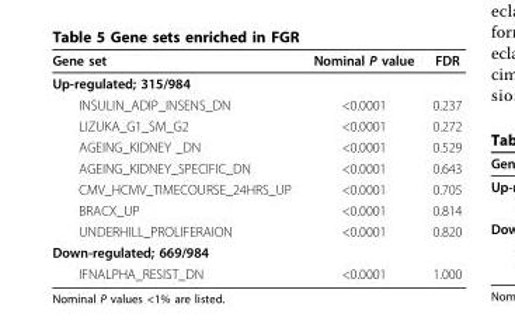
<table><thead><tr><td>Gene set</td><td>Nominal P value</td><td>FDR</td></tr></thead><tbody><tr><td colspan="3">Up-regulated; 315/984</td></tr><tr><td>INSULIN_ADIP_INSENS_DN</td><td>&lt;0.0001</td><td>0.237</td></tr><tr><td>LIZUKA_G1_SM_G2</td><td>&lt;0.0001</td><td>0.272</td></tr><tr><td>AGEING_KIDNEY _DN</td><td>&lt;0.0001</td><td>0.529</td></tr><tr><td>AGEING_KIDNEY_SPECIFIC_DN</td><td>&lt;0.0001</td><td>0.643</td></tr><tr><td>CMV_HCMV_TIMECOURSE_24HRS_UP</td><td>&lt;0.0001</td><td>0.705</td></tr><tr><td>BRACX_UP</td><td>&lt;0.0001</td><td>0.814</td></tr><tr><td>UNDERHILL_PROLIFERAION</td><td>&lt;0.0001</td><td>0.820</td></tr><tr><td colspan="3">Down-regulated; 669/984</td></tr><tr><td>IFNALPHA_RESIST_DN</td><td>&lt;0.0001</td><td>1.000</td></tr></tbody></table>